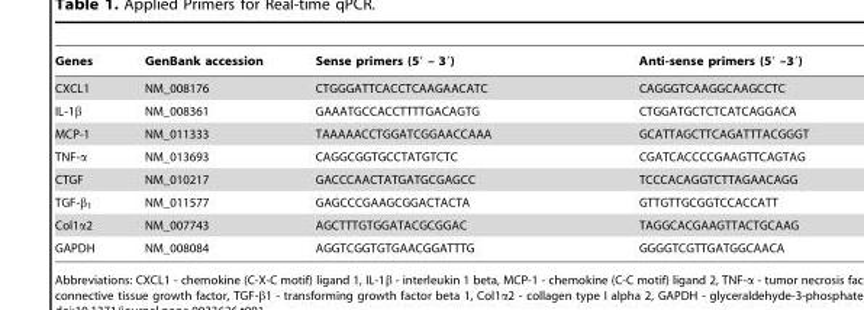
<table><thead><tr><td>Genes</td><td>GenBank accession</td><td>Sense primers (5′ – 3′)</td><td>Anti-sense primers (5′ –3′)</td></tr></thead><tbody><tr><td>CXCL1</td><td>NM_008176</td><td>CTGGGATTCACCTCAAGAACATC</td><td>CAGGGTCAAGGCAAGCCTC</td></tr><tr><td>IL-1β</td><td>NM_008361</td><td>GAAATGCCACCTTTTGACAGTG</td><td>CTGGATGCTCTCATCAGGACA</td></tr><tr><td>MCP-1</td><td>NM_011333</td><td>TAAAAACCTGGATCGGAACCAAA</td><td>GCATTAGCTTCAGATTTACGGGT</td></tr><tr><td>TNF-α</td><td>NM_013693</td><td>CAGGCGGTGCCTATGTCTC</td><td>CGATCACCCCGAAGTTCAGTAG</td></tr><tr><td>CTGF</td><td>NM_010217</td><td>GACCCAACTATGATGCGAGCC</td><td>TCCCACAGGTCTTAGAACAGG</td></tr><tr><td>TGF-β<sub>1</sub></td><td>NM_011577</td><td>GAGCCCGAAGCGGACTACTA</td><td>GTTGTTGCGGTCCACCATT</td></tr><tr><td>Col1α2</td><td>NM_007743</td><td>AGCTTTGTGGATACGCGGAC</td><td>TAGGCACGAAGTTACTGCAAG</td></tr><tr><td>GAPDH</td><td>NM_008084</td><td>AGGTCGGTGTGAACGGATTTG</td><td>GGGGTCGTTGATGGCAACA</td></tr></tbody></table>